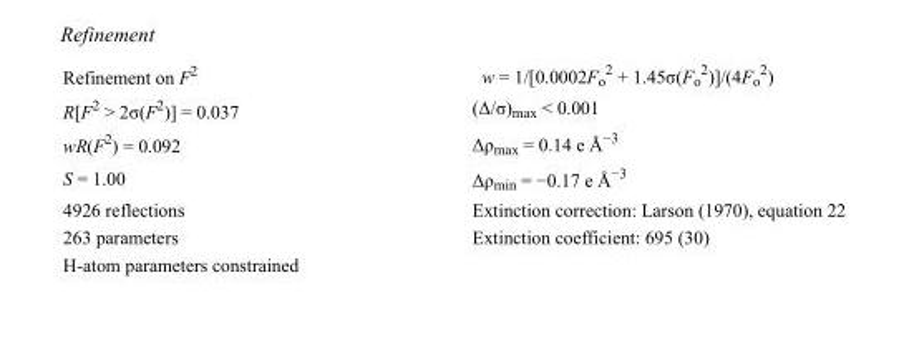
<table><tbody><tr><td>Refinement on F<sup>2</sup></td><td>w = 1/[0.0002F<sub>o</sub> <sup>2</sup> + 1.45σ(F<sub>o</sub> <sup>2</sup>)]/(4F<sub>o</sub> <sup>2</sup>)</td></tr><tr><td>R[F<sup>2</sup> &gt; 2σ(F<sup>2</sup>)] = 0.037</td><td>(Δ/σ)<sub>max</sub> &lt; 0.001</td></tr><tr><td>wR(F<sup>2</sup>) = 0.092</td><td>Δρ<sub>max</sub> = 0.14 e Å<sup>−3</sup></td></tr><tr><td>S = 1.00</td><td>Δρ<sub>min</sub> = −0.17 e Å<sup>−3</sup></td></tr><tr><td>4926 reflections</td><td>Extinction correction: Larson (1970), equation 22</td></tr><tr><td>263 parameters</td><td>Extinction coefficient: 695 (30)</td></tr><tr><td>H-atom parameters constrained</td><td></td></tr></tbody></table>